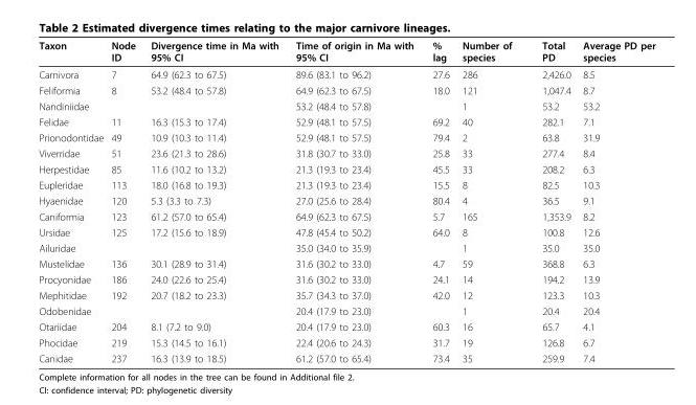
<table><thead><tr><td>Taxon</td><td>Node ID</td><td>Divergence time in Ma with 95% CI</td><td>Time of origin in Ma with 95% CI</td><td>% lag</td><td>Number of species</td><td>Total PD</td><td>Average PD per species</td></tr></thead><tbody><tr><td>Carnivora</td><td>7</td><td>64.9 (62.3 to 67.5)</td><td>89.6 (83.1 to 96.2)</td><td>27.6</td><td>286</td><td>2,426.0</td><td>8.5</td></tr><tr><td>Feliformia</td><td>8</td><td>53.2 (48.4 to 57.8)</td><td>64.9 (62.3 to 67.5)</td><td>18.0</td><td>121</td><td>1,047.4</td><td>8.7</td></tr><tr><td>Nandiniidae</td><td></td><td></td><td>53.2 (48.4 to 57.8)</td><td></td><td>1</td><td>53.2</td><td>53.2</td></tr><tr><td>Felidae</td><td>11</td><td>16.3 (15.3 to 17.4)</td><td>52.9 (48.1 to 57.5)</td><td>69.2</td><td>40</td><td>282.1</td><td>7.1</td></tr><tr><td>Prionodontidae</td><td>49</td><td>10.9 (10.3 to 11.4)</td><td>52.9 (48.1 to 57.5)</td><td>79.4</td><td>2</td><td>63.8</td><td>31.9</td></tr><tr><td>Viverridae</td><td>51</td><td>23.6 (21.3 to 28.6)</td><td>31.8 (30.7 to 33.0)</td><td>25.8</td><td>33</td><td>277.4</td><td>8.4</td></tr><tr><td>Herpestidae</td><td>85</td><td>11.6 (10.2 to 13.2)</td><td>21.3 (19.3 to 23.4)</td><td>45.5</td><td>33</td><td>208.2</td><td>6.3</td></tr><tr><td>Eupleridae</td><td>113</td><td>18.0 (16.8 to 19.3)</td><td>21.3 (19.3 to 23.4)</td><td>15.5</td><td>8</td><td>82.5</td><td>10.3</td></tr><tr><td>Hyaenidae</td><td>120</td><td>5.3 (3.3 to 7.3)</td><td>27.0 (25.6 to 28.4)</td><td>80.4</td><td>4</td><td>36.5</td><td>9.1</td></tr><tr><td>Caniformia</td><td>123</td><td>61.2 (57.0 to 65.4)</td><td>64.9 (62.3 to 67.5)</td><td>5.7</td><td>165</td><td>1,353.9</td><td>8.2</td></tr><tr><td>Ursidae</td><td>125</td><td>17.2 (15.6 to 18.9)</td><td>47.8 (45.4 to 50.2)</td><td>64.0</td><td>8</td><td>100.8</td><td>12.6</td></tr><tr><td>Ailuridae</td><td></td><td></td><td>35.0 (34.0 to 35.9)</td><td></td><td>1</td><td>35.0</td><td>35.0</td></tr><tr><td>Mustelidae</td><td>136</td><td>30.1 (28.9 to 31.4)</td><td>31.6 (30.2 to 33.0)</td><td>4.7</td><td>59</td><td>368.8</td><td>6.3</td></tr><tr><td>Procyonidae</td><td>186</td><td>24.0 (22.6 to 25.4)</td><td>31.6 (30.2 to 33.0)</td><td>24.1</td><td>14</td><td>194.2</td><td>13.9</td></tr><tr><td>Mephitidae</td><td>192</td><td>20.7 (18.2 to 23.3)</td><td>35.7 (34.3 to 37.0)</td><td>42.0</td><td>12</td><td>123.3</td><td>10.3</td></tr><tr><td>Odobenidae</td><td></td><td></td><td>20.4 (17.9 to 23.0)</td><td></td><td>1</td><td>20.4</td><td>20.4</td></tr><tr><td>Otariidae</td><td>204</td><td>8.1 (7.2 to 9.0)</td><td>20.4 (17.9 to 23.0)</td><td>60.3</td><td>16</td><td>65.7</td><td>4.1</td></tr><tr><td>Phocidae</td><td>219</td><td>15.3 (14.5 to 16.1)</td><td>22.4 (20.6 to 24.3)</td><td>31.7</td><td>19</td><td>126.8</td><td>6.7</td></tr><tr><td>Canidae</td><td>237</td><td>16.3 (13.9 to 18.5)</td><td>61.2 (57.0 to 65.4)</td><td>73.4</td><td>35</td><td>259.9</td><td>7.4</td></tr></tbody></table>